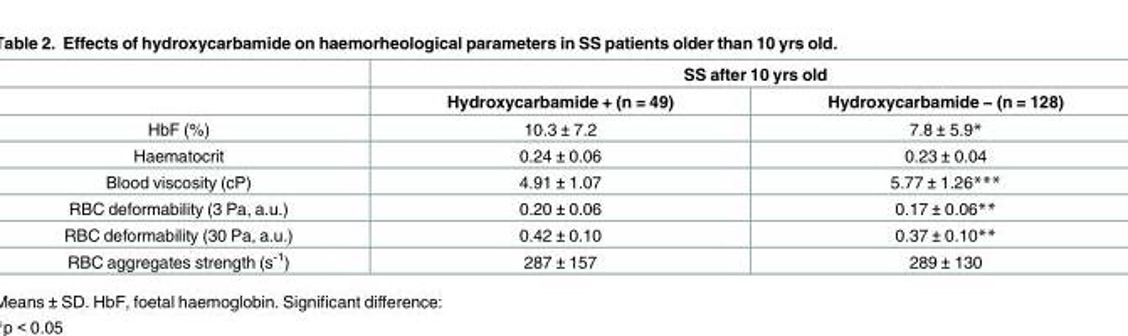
<table><thead><tr><td rowspan="2"></td><td colspan="2">SS after 10 yrs old</td></tr><tr><td>Hydroxycarbamide + (n = 49)</td><td>Hydroxycarbamide − (n = 128)</td></tr></thead><tbody><tr><td>HbF (%)</td><td>10.3 ± 7.2</td><td>7.8 ± 5.9*</td></tr><tr><td>Haematocrit</td><td>0.24 ± 0.06</td><td>0.23 ± 0.04</td></tr><tr><td>Blood viscosity (cP)</td><td>4.91 ± 1.07</td><td>5.77 ± 1.26***</td></tr><tr><td>RBC deformability (3 Pa, a.u.)</td><td>0.20 ± 0.06</td><td>0.17 ± 0.06**</td></tr><tr><td>RBC deformability (30 Pa, a.u.)</td><td>0.42 ± 0.10</td><td>0.37 ± 0.10**</td></tr><tr><td>RBC aggregates strength (s<sup>-1</sup>)</td><td>287 ± 157</td><td>289 ± 130</td></tr></tbody></table>